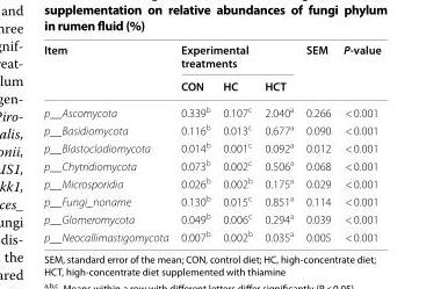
<table><thead><tr><td rowspan="2">Item</td><td colspan="3">Experimental treatments</td><td rowspan="2">SEM</td><td rowspan="2">P-value</td></tr><tr><td>CON</td><td>HC</td><td>HCT</td></tr></thead><tbody><tr><td>p__Ascomycota</td><td>0.339<sup>b</sup></td><td>0.107<sup>c</sup></td><td>2.040<sup>a</sup></td><td>0.266</td><td>&lt; 0.001</td></tr><tr><td>p__Basidiomycota</td><td>0.116<sup>b</sup></td><td>0.013<sup>c</sup></td><td>0.677<sup>a</sup></td><td>0.090</td><td>&lt; 0.001</td></tr><tr><td>p__Blastocladiomycota</td><td>0.014<sup>b</sup></td><td>0.001<sup>c</sup></td><td>0.092<sup>a</sup></td><td>0.012</td><td>&lt; 0.001</td></tr><tr><td>p__Chytridiomycota</td><td>0.073<sup>b</sup></td><td>0.002<sup>c</sup></td><td>0.506<sup>a</sup></td><td>0.068</td><td>&lt; 0.001</td></tr><tr><td>p__Microsporidia</td><td>0.026<sup>b</sup></td><td>0.002<sup>b</sup></td><td>0.175<sup>a</sup></td><td>0.029</td><td>&lt; 0.001</td></tr><tr><td>p__Fungi_noname</td><td>0.130<sup>b</sup></td><td>0.015<sup>c</sup></td><td>0.851<sup>a</sup></td><td>0.114</td><td>&lt; 0.001</td></tr><tr><td>p__Glomeromycota</td><td>0.049<sup>b</sup></td><td>0.006<sup>c</sup></td><td>0.294<sup>a</sup></td><td>0.039</td><td>&lt; 0.001</td></tr><tr><td>p__Neocallimastigomycota</td><td>0.007<sup>b</sup></td><td>0.002<sup>b</sup></td><td>0.035<sup>a</sup></td><td>0.005</td><td>&lt; 0.001</td></tr></tbody></table>